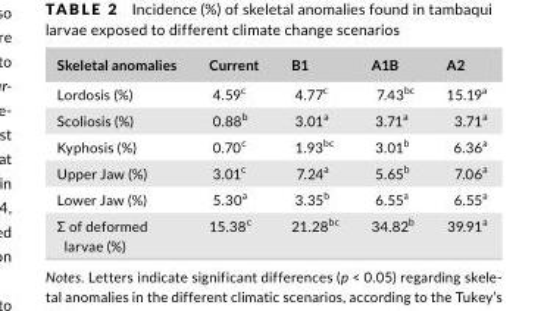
<table><thead><tr><td>Skeletal anomalies</td><td>Current</td><td>B1</td><td>A1B</td><td>A2</td></tr></thead><tbody><tr><td>Lordosis (%)</td><td>4.59<sup>c</sup></td><td>4.77<sup>c</sup></td><td>7.43<sup>bc</sup></td><td>15.19<sup>a</sup></td></tr><tr><td>Scoliosis (%)</td><td>0.88<sup>b</sup></td><td>3.01<sup>a</sup></td><td>3.71<sup>a</sup></td><td>3.71<sup>a</sup></td></tr><tr><td>Kyphosis (%)</td><td>0.70<sup>c</sup></td><td>1.93<sup>bc</sup></td><td>3.01<sup>b</sup></td><td>6.36<sup>a</sup></td></tr><tr><td>Upper Jaw (%)</td><td>3.01<sup>c</sup></td><td>7.24<sup>a</sup></td><td>5.65<sup>b</sup></td><td>7.06<sup>a</sup></td></tr><tr><td>Lower Jaw (%)</td><td>5.30<sup>a</sup></td><td>3.35<sup>b</sup></td><td>6.55<sup>a</sup></td><td>6.55<sup>a</sup></td></tr><tr><td>Ʃ of deformed larvae (%)</td><td>15.38<sup>c</sup></td><td>21.28<sup>bc</sup></td><td>34.82<sup>b</sup></td><td>39.91<sup>a</sup></td></tr></tbody></table>